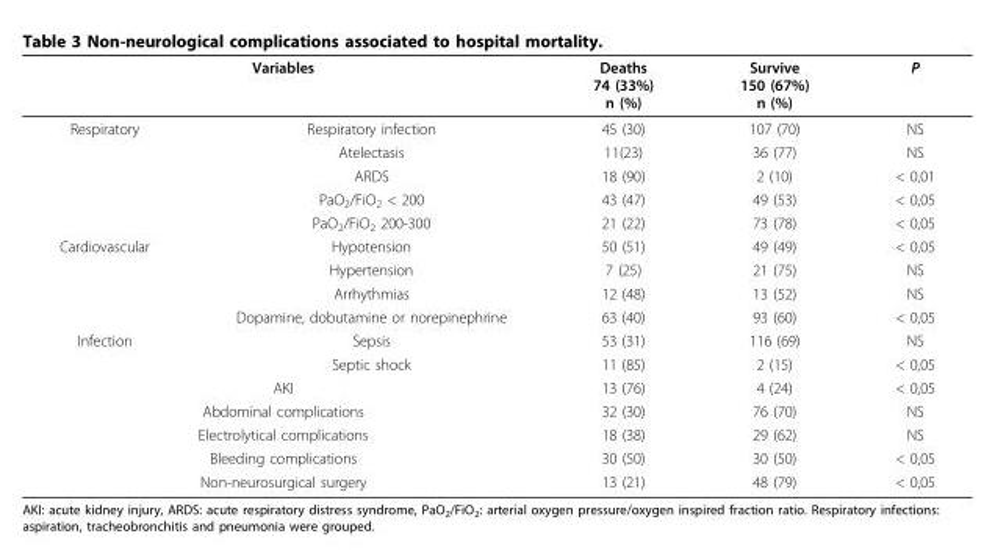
<table><thead><tr><td colspan="2">Variables</td><td rowspan="2">Deaths 74 (33%) n (%) 45 (30)</td><td rowspan="2">Survive 150 (67%) n (%) 107 (70)</td><td rowspan="2">P NS</td></tr><tr><td>Respiratory</td><td>Respiratory infection</td></tr></thead><tbody><tr><td></td><td>Atelectasis</td><td>11(23)</td><td>36 (77)</td><td>NS</td></tr><tr><td></td><td>ARDS</td><td>18 (90)</td><td>2 (10)</td><td>&lt; 0,01</td></tr><tr><td></td><td>PaO<sub>2</sub>/FiO<sub>2</sub> &lt; 200</td><td>43 (47)</td><td>49 (53)</td><td>&lt; 0,05</td></tr><tr><td></td><td>PaO<sub>2</sub>/FiO<sub>2</sub> 200-300</td><td>21 (22)</td><td>73 (78)</td><td>&lt; 0,05</td></tr><tr><td rowspan="4">Cardiovascular</td><td>Hypotension</td><td>50 (51)</td><td>49 (49)</td><td>&lt; 0,05</td></tr><tr><td>Hypertension</td><td>7 (25)</td><td>21 (75)</td><td>NS</td></tr><tr><td>Arrhythmias</td><td>12 (48)</td><td>13 (52)</td><td>NS</td></tr><tr><td>Dopamine, dobutamine or norepinephrine</td><td>63 (40)</td><td>93 (60)</td><td>&lt; 0,05</td></tr><tr><td rowspan="2">Infection</td><td>Sepsis</td><td>53 (31)</td><td>116 (69)</td><td>NS</td></tr><tr><td>Septic shock</td><td>11 (85)</td><td>2 (15)</td><td>&lt; 0,05</td></tr><tr><td colspan="2">AKI</td><td>13 (76)</td><td>4 (24)</td><td>&lt; 0,05</td></tr><tr><td colspan="2">Abdominal complications</td><td>32 (30)</td><td>76 (70)</td><td>NS</td></tr><tr><td colspan="2">Electrolytical complications</td><td>18 (38)</td><td>29 (62)</td><td>NS</td></tr><tr><td colspan="2">Bleeding complications</td><td>30 (50)</td><td>30 (50)</td><td>&lt; 0,05</td></tr><tr><td colspan="2">Non-neurosurgical surgery</td><td>13 (21)</td><td>48 (79)</td><td>&lt; 0,05</td></tr></tbody></table>